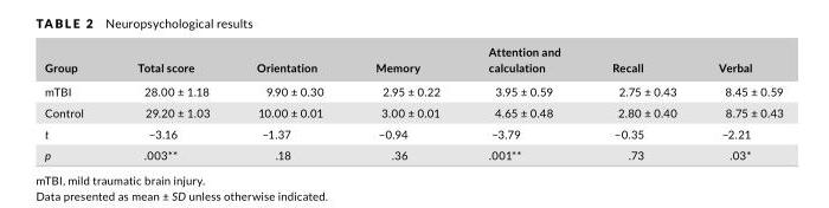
<table><thead><tr><td>Group</td><td>Total score</td><td>Orientation</td><td>Memory</td><td>Attention and calculation</td><td>Recall</td><td>Verbal</td></tr></thead><tbody><tr><td>mTBI</td><td>28.00 ± 1.18</td><td>9.90 ± 0.30</td><td>2.95 ± 0.22</td><td>3.95 ± 0.59</td><td>2.75 ± 0.43</td><td>8.45 ± 0.59</td></tr><tr><td>Control</td><td>29.20 ± 1.03</td><td>10.00 ± 0.01</td><td>3.00 ± 0.01</td><td>4.65 ± 0.48</td><td>2.80 ± 0.40</td><td>8.75 ± 0.43</td></tr><tr><td>t</td><td>−3.16</td><td>−1.37</td><td>−0.94</td><td>−3.79</td><td>−0.35</td><td>−2.21</td></tr><tr><td>p</td><td>.003**</td><td>.18</td><td>.36</td><td>.001**</td><td>.73</td><td>.03*</td></tr></tbody></table>